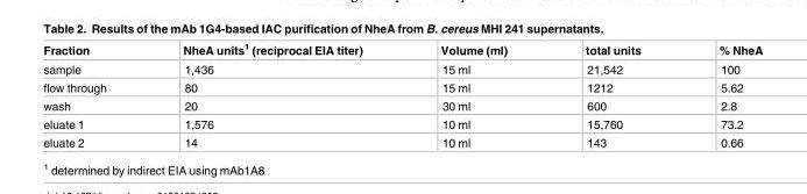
<table><thead><tr><td>Fraction</td><td>NheA units<sup>1</sup> (reciprocal EIA titer)</td><td>Volume (ml)</td><td>total units</td><td>% NheA</td></tr></thead><tbody><tr><td>sample</td><td>1,436</td><td>15 ml</td><td>21,542</td><td>100</td></tr><tr><td>flow through</td><td>80</td><td>15 ml</td><td>1212</td><td>5.62</td></tr><tr><td>wash</td><td>20</td><td>30 ml</td><td>600</td><td>2.8</td></tr><tr><td>eluate 1</td><td>1,576</td><td>10 ml</td><td>15,760</td><td>73.2</td></tr><tr><td>eluate 2</td><td>14</td><td>10 ml</td><td>143</td><td>0.66</td></tr></tbody></table>